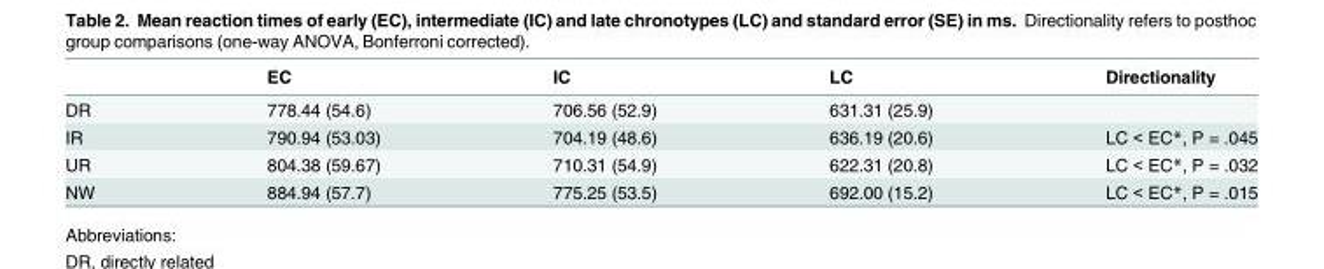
<table><thead><tr><td></td><td>EC</td><td>IC</td><td>LC</td><td>Directionality</td></tr></thead><tbody><tr><td>DR</td><td>778.44 (54.6)</td><td>706.56 (52.9)</td><td>631.31 (25.9)</td><td></td></tr><tr><td>IR</td><td>790.94 (53.03)</td><td>704.19 (48.6)</td><td>636.19 (20.6)</td><td>LC &lt; EC*, P = .045</td></tr><tr><td>UR</td><td>804.38 (59.67)</td><td>710.31 (54.9)</td><td>622.31 (20.8)</td><td>LC &lt; EC*, P = .032</td></tr><tr><td>NW</td><td>884.94 (57.7)</td><td>775.25 (53.5)</td><td>692.00 (15.2)</td><td>LC &lt; EC*, P = .015</td></tr></tbody></table>